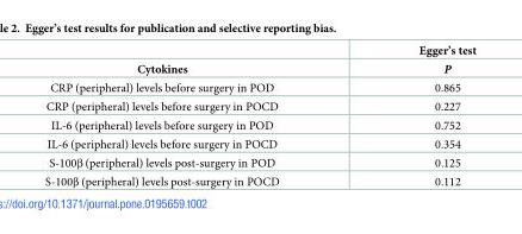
<table><thead><tr><td rowspan="2">Cytokines</td><td rowspan="2">Egger’s test P</td></tr><tr></tr></thead><tbody><tr><td>CRP (peripheral) levels before surgery in POD</td><td>0.865</td></tr><tr><td>CRP (peripheral) levels before surgery in POCD</td><td>0.227</td></tr><tr><td>IL-6 (peripheral) levels before surgery in POD</td><td>0.752</td></tr><tr><td>IL-6 (peripheral) levels before surgery in POCD</td><td>0.354</td></tr><tr><td>S-100β (peripheral) levels post-surgery in POD</td><td>0.125</td></tr><tr><td>S-100β (peripheral) levels post-surgery in POCD</td><td>0.112</td></tr></tbody></table>